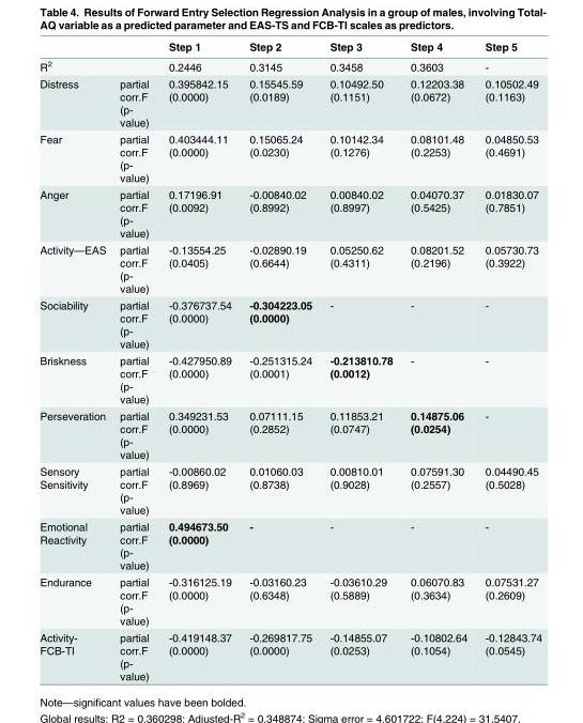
<table><thead><tr><td></td><td></td><td>Step 1</td><td>Step 2</td><td>Step 3</td><td>Step 4</td><td>Step 5</td></tr></thead><tbody><tr><td colspan="2">R<sup>2</sup></td><td>0.2446</td><td>0.3145</td><td>0.3458</td><td>0.3603</td><td>-</td></tr><tr><td>Distress</td><td>partial corr.F (p- value)</td><td>0.395842.15 (0.0000)</td><td>0.15545.59 (0.0189)</td><td>0.10492.50 (0.1151)</td><td>0.12203.38 (0.0672)</td><td>0.10502.49 (0.1163)</td></tr><tr><td>Fear</td><td>partial corr.F (p- value)</td><td>0.403444.11 (0.0000)</td><td>0.15065.24 (0.0230)</td><td>0.10142.34 (0.1276)</td><td>0.08101.48 (0.2253)</td><td>0.04850.53 (0.4691)</td></tr><tr><td>Anger</td><td>partial corr.F (p- value)</td><td>0.17196.91 (0.0092)</td><td>-0.00840.02 (0.8992)</td><td>0.00840.02 (0.8997)</td><td>0.04070.37 (0.5425)</td><td>0.01830.07 (0.7851)</td></tr><tr><td>Activity—EAS</td><td>partial corr.F (p- value)</td><td>-0.13554.25 (0.0405)</td><td>-0.02890.19 (0.6644)</td><td>0.05250.62 (0.4311)</td><td>0.08201.52 (0.2196)</td><td>0.05730.73 (0.3922)</td></tr><tr><td>Sociability</td><td>partial corr.F (p- value)</td><td>-0.376737.54 (0.0000)</td><td>-0.304223.05 (0.0000)</td><td>-</td><td>-</td><td>-</td></tr><tr><td>Briskness</td><td>partial corr.F (p- value)</td><td>-0.427950.89 (0.0000)</td><td>-0.251315.24 (0.0001)</td><td>-0.213810.78 (0.0012)</td><td>-</td><td>-</td></tr><tr><td>Perseveration</td><td>partial corr.F (p- value)</td><td>0.349231.53 (0.0000)</td><td>0.07111.15 (0.2852)</td><td>0.11853.21 (0.0747)</td><td>0.14875.06 (0.0254)</td><td>-</td></tr><tr><td>Sensory Sensitivity</td><td>partial corr.F (p- value)</td><td>-0.00860.02 (0.8969)</td><td>0.01060.03 (0.8738)</td><td>0.00810.01 (0.9028)</td><td>0.07591.30 (0.2557)</td><td>0.04490.45 (0.5028)</td></tr><tr><td>Emotional Reactivity</td><td>partial corr.F (p- value)</td><td>0.494673.50 (0.0000)</td><td>-</td><td>-</td><td>-</td><td>-</td></tr><tr><td>Endurance</td><td>partial corr.F (p- value)</td><td>-0.316125.19 (0.0000)</td><td>-0.03160.23 (0.6348)</td><td>-0.03610.29 (0.5889)</td><td>0.06070.83 (0.3634)</td><td>0.07531.27 (0.2609)</td></tr><tr><td>Activity- FCB-TI</td><td>partial corr.F (p- value)</td><td>-0.419148.37 (0.0000)</td><td>-0.269817.75 (0.0000)</td><td>-0.14855.07 (0.0253)</td><td>-0.10802.64 (0.1054)</td><td>-0.12843.74 (0.0545)</td></tr></tbody></table>